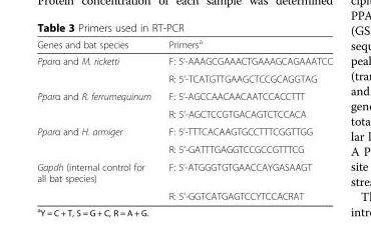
<table><thead><tr><td>Genes and bat species</td><td>Primers<sup>a</sup></td></tr></thead><tbody><tr><td rowspan="2">Pparα and M. ricketti</td><td>F: 5’-AAAGCGAAACTGAAAGCAGAAATCC</td></tr><tr><td>R: 5’-TCATGTTGAAGCTCCGCAGGTAG</td></tr><tr><td rowspan="2">Pparα and R. ferrumequinum</td><td>F: 5’-AGCCAACAACAATCCACCTTT</td></tr><tr><td>R: 5’-AGCTCCGTGACAGTCTCCACA</td></tr><tr><td rowspan="2">Pparα and H. armiger</td><td>F: 5’-TTTCACAAGTGCCTTTCGGTTGG</td></tr><tr><td>R: 5’-GATTTGAGGTCCGCCGTTTCG</td></tr><tr><td rowspan="2">Gapdh (internal control for all bat species)</td><td>F: 5’-ATGGGTGTGAACCAYGASAAGT</td></tr><tr><td>R: 5’-GGTCATGAGTCCYTCCACRAT</td></tr></tbody></table>